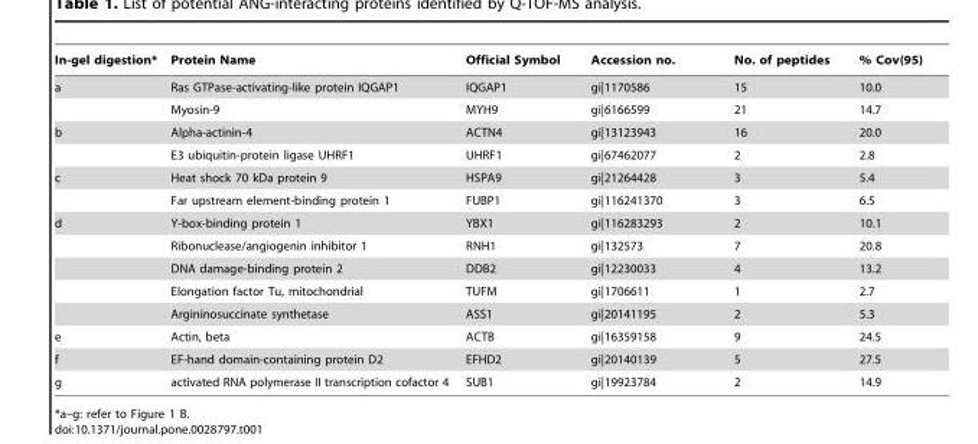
<table><thead><tr><td>In-gel digestion*</td><td>Protein Name</td><td>Official Symbol</td><td>Accession no.</td><td>No. of peptides</td><td>% Cov(95)</td></tr></thead><tbody><tr><td rowspan="2">a</td><td>Ras GTPase-activating-like protein IQGAP1</td><td>IQGAP1</td><td>gi|1170586</td><td>15</td><td>10.0</td></tr><tr><td>Myosin-9</td><td>MYH9</td><td>gi|6166599</td><td>21</td><td>14.7</td></tr><tr><td rowspan="2">b</td><td>Alpha-actinin-4</td><td>ACTN4</td><td>gi|13123943</td><td>16</td><td>20.0</td></tr><tr><td>E3 ubiquitin-protein ligase UHRF1</td><td>UHRF1</td><td>gi|67462077</td><td>2</td><td>2.8</td></tr><tr><td rowspan="2">c</td><td>Heat shock 70 kDa protein 9</td><td>HSPA9</td><td>gi|21264428</td><td>3</td><td>5.4</td></tr><tr><td>Far upstream element-binding protein 1</td><td>FUBP1</td><td>gi|116241370</td><td>3</td><td>6.5</td></tr><tr><td rowspan="5">d</td><td>Y-box-binding protein 1</td><td>YBX1</td><td>gi|116283293</td><td>2</td><td>10.1</td></tr><tr><td>Ribonuclease/angiogenin inhibitor 1</td><td>RNH1</td><td>gi|132573</td><td>7</td><td>20.8</td></tr><tr><td>DNA damage-binding protein 2</td><td>DDB2</td><td>gi|12230033</td><td>4</td><td>13.2</td></tr><tr><td>Elongation factor Tu, mitochondrial</td><td>TUFM</td><td>gi|1706611</td><td>1</td><td>2.7</td></tr><tr><td>Argininosuccinate synthetase</td><td>ASS1</td><td>gi|20141195</td><td>2</td><td>5.3</td></tr><tr><td>e</td><td>Actin, beta</td><td>ACTB</td><td>gi|16359158</td><td>9</td><td>24.5</td></tr><tr><td>f</td><td>EF-hand domain-containing protein D2</td><td>EFHD2</td><td>gi|20140139</td><td>5</td><td>27.5</td></tr><tr><td>g</td><td>activated RNA polymerase II transcription cofactor 4</td><td>SUB1</td><td>gi|19923784</td><td>2</td><td>14.9</td></tr></tbody></table>